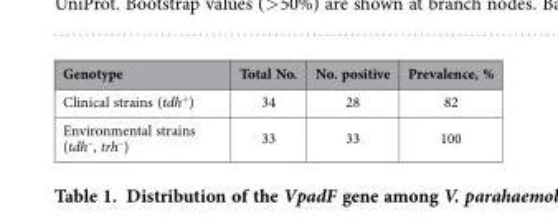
<table><thead><tr><td>Genotype</td><td>Total No.</td><td>No. positive</td><td>Prevalence, %</td></tr></thead><tbody><tr><td>Clinical strains (tdh<sup>+</sup>)</td><td>34</td><td>28</td><td>82</td></tr><tr><td>Environmental strains (tdh<sup>−</sup>, trh<sup>−</sup>)</td><td>33</td><td>33</td><td>100</td></tr></tbody></table>